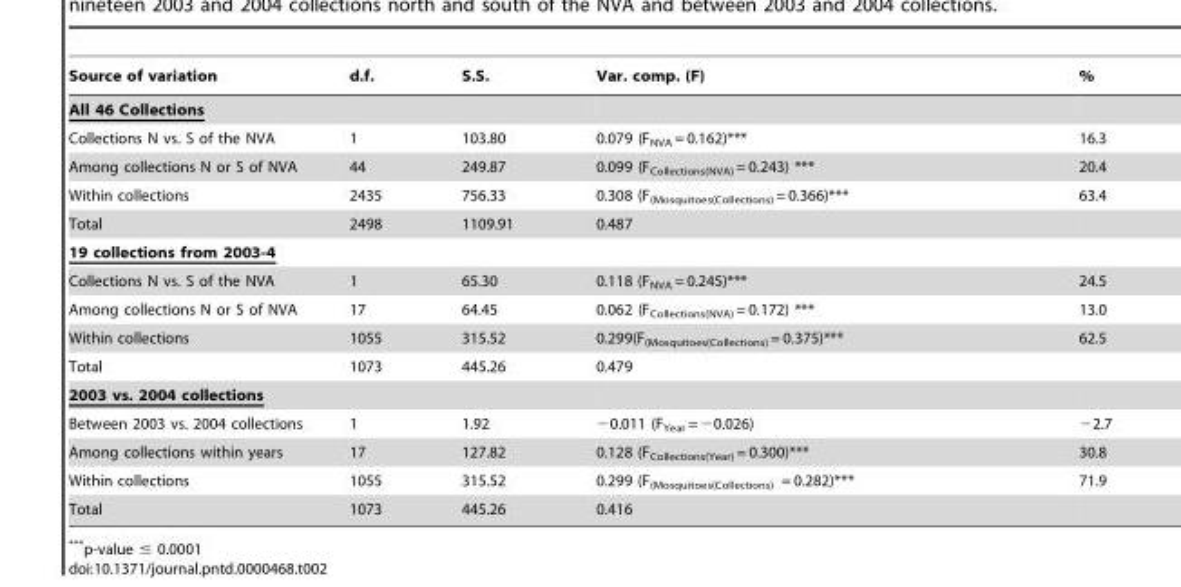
<table><thead><tr><td>Source of variation</td><td>d.f.</td><td>S.S.</td><td>Var. comp. (F)</td><td>%</td></tr></thead><tbody><tr><td colspan="5">All 46 Collections</td></tr><tr><td>Collections N vs. S of the NVA</td><td>1</td><td>103.80</td><td>0.079 (F<sub>NVA</sub> = 0.162)***</td><td>16.3</td></tr><tr><td>Among collections N or S of NVA</td><td>44</td><td>249.87</td><td>0.099 (F<sub>Collections(NVA)</sub> = 0.243) ***</td><td>20.4</td></tr><tr><td>Within collections</td><td>2435</td><td>756.33</td><td>0.308 (F<sub>(Mosquitoes(Collections)</sub> = 0.366)***</td><td>63.4</td></tr><tr><td>Total</td><td>2498</td><td>1109.91</td><td>0.487</td><td></td></tr><tr><td colspan="5">19 collections from 2003-4</td></tr><tr><td>Collections N vs. S of the NVA</td><td>1</td><td>65.30</td><td>0.118 (F<sub>NVA</sub> = 0.245)***</td><td>24.5</td></tr><tr><td>Among collections N or S of NVA</td><td>17</td><td>64.45</td><td>0.062 (F<sub>Collections(NVA)</sub> = 0.172) ***</td><td>13.0</td></tr><tr><td>Within collections</td><td>1055</td><td>315.52</td><td>0.299(F<sub>(Mosquitoes(Collections)</sub> = 0.375)***</td><td>62.5</td></tr><tr><td>Total</td><td>1073</td><td>445.26</td><td>0.479</td><td></td></tr><tr><td colspan="5">2003 vs. 2004 collections</td></tr><tr><td>Between 2003 vs. 2004 collections</td><td>1</td><td>1.92</td><td>−0.011 (F<sub>Year</sub> = −0.026)</td><td>−2.7</td></tr><tr><td>Among collections within years</td><td>17</td><td>127.82</td><td>0.128 (F<sub>Collections(Year)</sub> = 0.300)***</td><td>30.8</td></tr><tr><td>Within collections</td><td>1055</td><td>315.52</td><td>0.299 (F<sub>(Mosquitoes(Collections)</sub> = 0.282)***</td><td>71.9</td></tr><tr><td>Total</td><td>1073</td><td>445.26</td><td>0.416</td><td></td></tr></tbody></table>